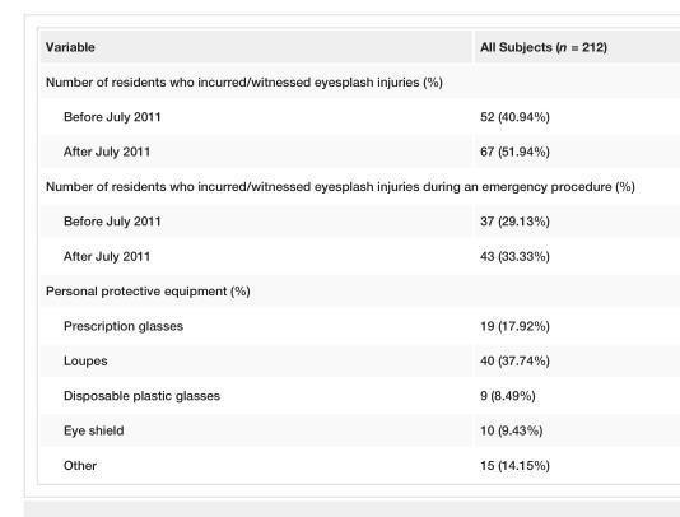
<table><tbody><tr><td>Variable</td><td>All Subjects (n = 212)</td></tr><tr><td colspan="2">Number of residents who incurred/witnessed eyesplash injuries (%)</td></tr><tr><td>Before July 2011</td><td>52 (40.94%)</td></tr><tr><td>After July 2011</td><td>67 (51.94%)</td></tr><tr><td colspan="2">Number of residents who incurred/witnessed eyesplash injuries during an emergency procedure (%)</td></tr><tr><td>Before July 2011</td><td>37 (29.13%)</td></tr><tr><td>After July 2011</td><td>43 (33.33%)</td></tr><tr><td colspan="2">Personal protective equipment (%)</td></tr><tr><td>Prescription glasses</td><td>19 (17.92%)</td></tr><tr><td>Loupes</td><td>40 (37.74%)</td></tr><tr><td>Disposable plastic glasses</td><td>9 (8.49%)</td></tr><tr><td>Eye shield</td><td>10 (9.43%)</td></tr><tr><td>Other</td><td>15 (14.15%)</td></tr></tbody></table>